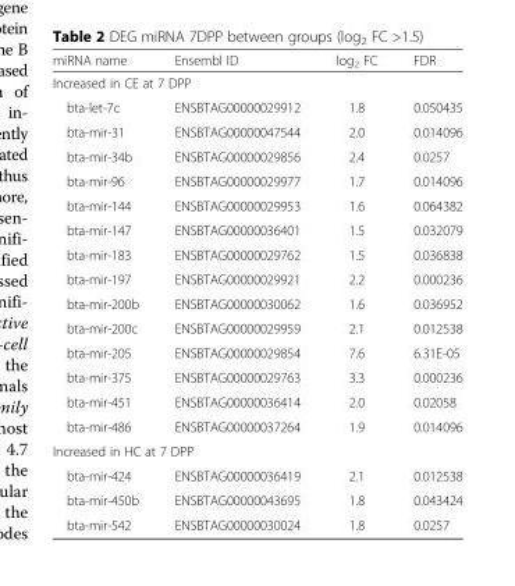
<table><thead><tr><td>miRNA name</td><td>Ensembl ID</td><td>log<sub>2</sub> FC</td><td>FDR</td></tr></thead><tbody><tr><td colspan="4">Increased in CE at 7 DPP</td></tr><tr><td>bta-let-7c</td><td>ENSBTAG00000029912</td><td>1.8</td><td>0.050435</td></tr><tr><td>bta-mir-31</td><td>ENSBTAG00000047544</td><td>2.0</td><td>0.014096</td></tr><tr><td>bta-mir-34b</td><td>ENSBTAG00000029856</td><td>2.4</td><td>0.0257</td></tr><tr><td>bta-mir-96</td><td>ENSBTAG00000029977</td><td>1.7</td><td>0.014096</td></tr><tr><td>bta-mir-144</td><td>ENSBTAG00000029953</td><td>1.6</td><td>0.064382</td></tr><tr><td>bta-mir-147</td><td>ENSBTAG00000036401</td><td>1.5</td><td>0.032079</td></tr><tr><td>bta-mir-183</td><td>ENSBTAG00000029762</td><td>1.5</td><td>0.036838</td></tr><tr><td>bta-mir-197</td><td>ENSBTAG00000029921</td><td>2.2</td><td>0.000236</td></tr><tr><td>bta-mir-200b</td><td>ENSBTAG00000030062</td><td>1.6</td><td>0.036952</td></tr><tr><td>bta-mir-200c</td><td>ENSBTAG00000029959</td><td>2.1</td><td>0.012538</td></tr><tr><td>bta-mir-205</td><td>ENSBTAG00000029854</td><td>7.6</td><td>6.31E-05</td></tr><tr><td>bta-mir-375</td><td>ENSBTAG00000029763</td><td>3.3</td><td>0.000236</td></tr><tr><td>bta-mir-451</td><td>ENSBTAG00000036414</td><td>2.0</td><td>0.02058</td></tr><tr><td>bta-mir-486</td><td>ENSBTAG00000037264</td><td>1.9</td><td>0.014096</td></tr><tr><td colspan="4">Increased in HC at 7 DPP</td></tr><tr><td>bta-mir-424</td><td>ENSBTAG00000036419</td><td>2.1</td><td>0.012538</td></tr><tr><td>bta-mir-450b</td><td>ENSBTAG00000043695</td><td>1.8</td><td>0.043424</td></tr><tr><td>bta-mir-542</td><td>ENSBTAG00000030024</td><td>1.8</td><td>0.0257</td></tr></tbody></table>